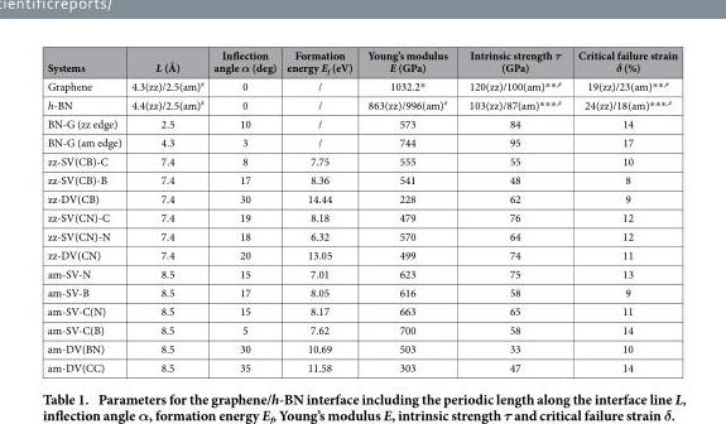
<table><thead><tr><td>Systems</td><td>L (Å)</td><td>Inflection angle α (deg)</td><td>Formation energy E<sub>f</sub> (eV)</td><td>Young’s modulus E (GPa)</td><td>Intrinsic strength τ (GPa)</td><td>Critical failure strain δ (%)</td></tr></thead><tbody><tr><td>Graphene</td><td>4.3(zz)/2.5(am)#</td><td>0</td><td>/</td><td>1032.2*</td><td>120(zz)/100(am)**,#</td><td>19(zz)/23(am)**,#</td></tr><tr><td>h-BN</td><td>4.4(zz)/2.5(am)#</td><td>0</td><td>/</td><td>863(zz)/996(am)#</td><td>103(zz)/87(am)***,#</td><td>24(zz)/18(am)***,#</td></tr><tr><td>BN-G (zz edge)</td><td>2.5</td><td>10</td><td>/</td><td>573</td><td>84</td><td>14</td></tr><tr><td>BN-G (am edge)</td><td>4.3</td><td>3</td><td>/</td><td>744</td><td>95</td><td>17</td></tr><tr><td>zz-SV(CB)-C</td><td>7.4</td><td>8</td><td>7.75</td><td>555</td><td>55</td><td>10</td></tr><tr><td>zz-SV(CB)-B</td><td>7.4</td><td>17</td><td>8.36</td><td>541</td><td>48</td><td>8</td></tr><tr><td>zz-DV(CB)</td><td>7.4</td><td>30</td><td>14.44</td><td>228</td><td>62</td><td>9</td></tr><tr><td>zz-SV(CN)-C</td><td>7.4</td><td>19</td><td>8.18</td><td>479</td><td>76</td><td>12</td></tr><tr><td>zz-SV(CN)-N</td><td>7.4</td><td>18</td><td>6.32</td><td>570</td><td>64</td><td>12</td></tr><tr><td>zz-DV(CN)</td><td>7.4</td><td>20</td><td>13.05</td><td>499</td><td>74</td><td>11</td></tr><tr><td>am-SV-N</td><td>8.5</td><td>15</td><td>7.01</td><td>623</td><td>75</td><td>13</td></tr><tr><td>am-SV-B</td><td>8.5</td><td>17</td><td>8.05</td><td>616</td><td>58</td><td>9</td></tr><tr><td>am-SV-C(N)</td><td>8.5</td><td>15</td><td>8.17</td><td>663</td><td>65</td><td>11</td></tr><tr><td>am-SV-C(B)</td><td>8.5</td><td>5</td><td>7.62</td><td>700</td><td>58</td><td>14</td></tr><tr><td>am-DV(BN)</td><td>8.5</td><td>30</td><td>10.69</td><td>503</td><td>33</td><td>10</td></tr><tr><td>am-DV(CC)</td><td>8.5</td><td>35</td><td>11.58</td><td>303</td><td>47</td><td>14</td></tr></tbody></table>